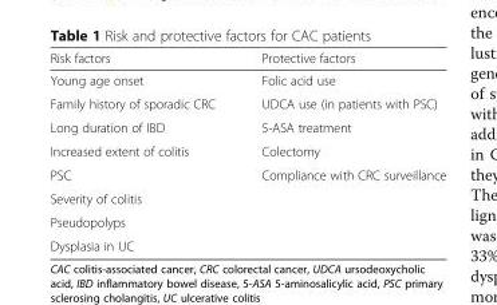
<table><thead><tr><td>Risk factors</td><td>Protective factors</td></tr></thead><tbody><tr><td>Young age onset</td><td>Folic acid use</td></tr><tr><td>Family history of sporadic CRC</td><td>UDCA use (in patients with PSC)</td></tr><tr><td>Long duration of IBD</td><td>5-ASA treatment</td></tr><tr><td>Increased extent of colitis</td><td>Colectomy</td></tr><tr><td>PSC</td><td>Compliance with CRC surveillance</td></tr><tr><td colspan="2">Severity of colitis</td></tr><tr><td colspan="2">Pseudopolyps</td></tr><tr><td>Dysplasia in UC</td><td></td></tr></tbody></table>